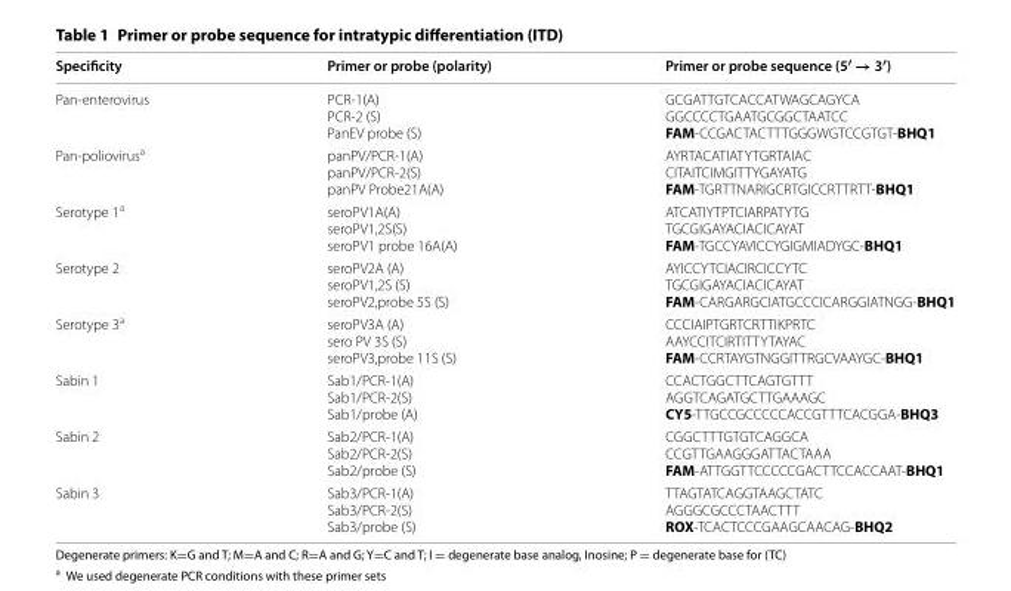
<table><thead><tr><td>Specificity</td><td>Primer or probe (polarity)</td><td>Primer or probe sequence (5′ → 3′)</td></tr></thead><tbody><tr><td>Pan-enterovirus</td><td>PCR-1(A) PCR-2 (S) PanEV probe (S)</td><td>GCGATTGTCACCATWAGCAGYCA GGCCCCTGAATGCGGCTAATCC FAM-CCGACTACTTTGGGWGTCCGTGT-BHQ1</td></tr><tr><td>Pan-poliovirus<sup>a</sup></td><td>panPV/PCR-1(A) panPV/PCR-2(S) panPV Probe21A(A)</td><td>AYRTACATIATYTGRTAIAC CITAITCIMGITTYGAYATG FAM-TGRTTNARIGCRTGICCRTTRTT-BHQ1</td></tr><tr><td>Serotype 1<sup>a</sup></td><td>seroPV1A(A) seroPV1,2S(S) seroPV1 probe 16A(A)</td><td>ATCATIYTPTCIARPATYTG TGCGIGAYACIACICAYAT FAM-TGCCYAVICCYGIGMIADYGC-BHQ1</td></tr><tr><td>Serotype 2</td><td>seroPV2A (A) seroPV1,2S (S) seroPV2,probe 5S (S)</td><td>AYICCYTCIACIRCICCYTC TGCGIGAYACIACICAYAT FAM-CARGARGCIATGCCCICARGGIATNGG-BHQ1</td></tr><tr><td>Serotype 3<sup>a</sup></td><td>seroPV3A (A) sero PV 3S (S) seroPV3,probe 11S (S)</td><td>CCCIAIPTGRTCRTTIKPRTC AAYCCITCIRTITTYTAYAC FAM-CCRTAYGTNGGITTRGCVAAYGC-BHQ1</td></tr><tr><td>Sabin 1</td><td>Sab1/PCR-1(A) Sab1/PCR-2(S) Sab1/probe (A)</td><td>CCACTGGCTTCAGTGTTT AGGTCAGATGCTTGAAAGC CY5-TTGCCGCCCCCACCGTTTCACGGA-BHQ3</td></tr><tr><td>Sabin 2</td><td>Sab2/PCR-1(A) Sab2/PCR-2(S) Sab2/probe (S)</td><td>CGGCTTTGTGTCAGGCA CCGTTGAAGGGATTACTAAA FAM-ATTGGTTCCCCCGACTTCCACCAAT-BHQ1</td></tr><tr><td>Sabin 3</td><td>Sab3/PCR-1(A) Sab3/PCR-2(S) Sab3/probe (S)</td><td>TTAGTATCAGGTAAGCTATC AGGGCGCCCTAACTTT ROX-TCACTCCCGAAGCAACAG-BHQ2</td></tr></tbody></table>